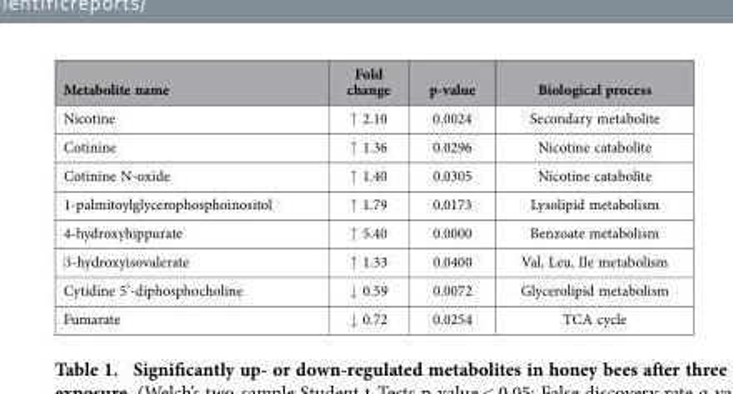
<table><thead><tr><td>Metabolite name</td><td>Fold change</td><td>p-value</td><td>Biological process</td></tr></thead><tbody><tr><td>Nicotine</td><td>↑ 2.10</td><td>0.0024</td><td>Secondary metabolite</td></tr><tr><td>Cotinine</td><td>↑ 1.36</td><td>0.0296</td><td>Nicotine catabolite</td></tr><tr><td>Cotinine N-oxide</td><td>↑ 1.40</td><td>0.0305</td><td>Nicotine catabolite</td></tr><tr><td>1-palmitoylglycerophosphoinositol</td><td>↑ 1.79</td><td>0.0173</td><td>Lysolipid metabolism</td></tr><tr><td>4-hydroxyhippurate</td><td>↑ 5.40</td><td>0.0000</td><td>Benzoate metabolism</td></tr><tr><td>β -hydroxyisovalerate</td><td>↑ 1.33</td><td>0.0400</td><td>Val, Leu, Ile metabolism</td></tr><tr><td>Cytidine 5’-diphosphocholine</td><td>↓ 0.59</td><td>0.0072</td><td>Glycerolipid metabolism</td></tr><tr><td>Fumarate</td><td>↓ 0.72</td><td>0.0254</td><td>TCA cycle</td></tr></tbody></table>